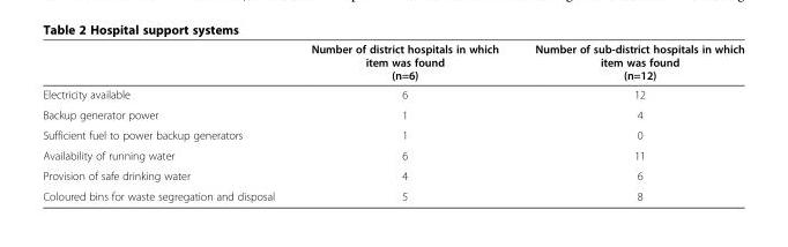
<table><thead><tr><td></td><td>Number of district hospitals in which item was found (n=6)</td><td>Number of sub-district hospitals in which item was found (n=12)</td></tr></thead><tbody><tr><td>Electricity available</td><td>6</td><td>12</td></tr><tr><td>Backup generator power</td><td>1</td><td>4</td></tr><tr><td>Sufficient fuel to power backup generators</td><td>1</td><td>0</td></tr><tr><td>Availability of running water</td><td>6</td><td>11</td></tr><tr><td>Provision of safe drinking water</td><td>4</td><td>6</td></tr><tr><td>Coloured bins for waste segregation and disposal</td><td>5</td><td>8</td></tr></tbody></table>